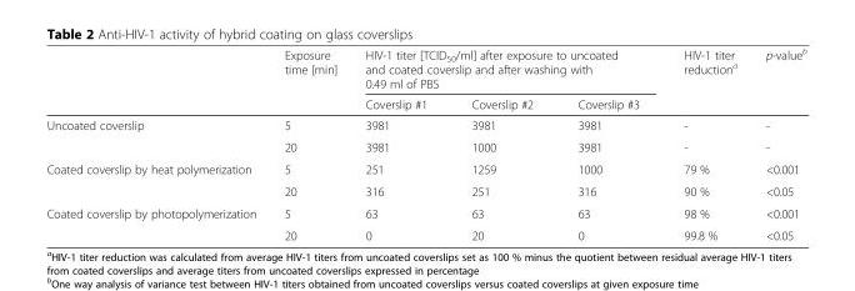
<table><thead><tr><td rowspan="2"></td><td rowspan="2">Exposure time [min]</td><td colspan="3">HIV-1 titer [TCID<sub>50</sub>/ml] after exposure to uncoated and coated coverslip and after washing with 0.49 ml of PBS</td><td rowspan="2">HIV-1 titer reduction<sup>a</sup></td><td rowspan="2">p-value<sup>b</sup></td></tr><tr><td>Coverslip #1</td><td>Coverslip #2</td><td>Coverslip #3</td></tr></thead><tbody><tr><td rowspan="2">Uncoated coverslip</td><td>5</td><td>3981</td><td>3981</td><td>3981</td><td>-</td><td>-</td></tr><tr><td>20</td><td>3981</td><td>1000</td><td>3981</td><td>-</td><td>-</td></tr><tr><td rowspan="2">Coated coverslip by heat polymerization</td><td>5</td><td>251</td><td>1259</td><td>1000</td><td>79 %</td><td>&lt;0.001</td></tr><tr><td>20</td><td>316</td><td>251</td><td>316</td><td>90 %</td><td>&lt;0.05</td></tr><tr><td rowspan="2">Coated coverslip by photopolymerization</td><td>5</td><td>63</td><td>63</td><td>63</td><td>98 %</td><td>&lt;0.001</td></tr><tr><td>20</td><td>0</td><td>20</td><td>0</td><td>99.8 %</td><td>&lt;0.05</td></tr></tbody></table>